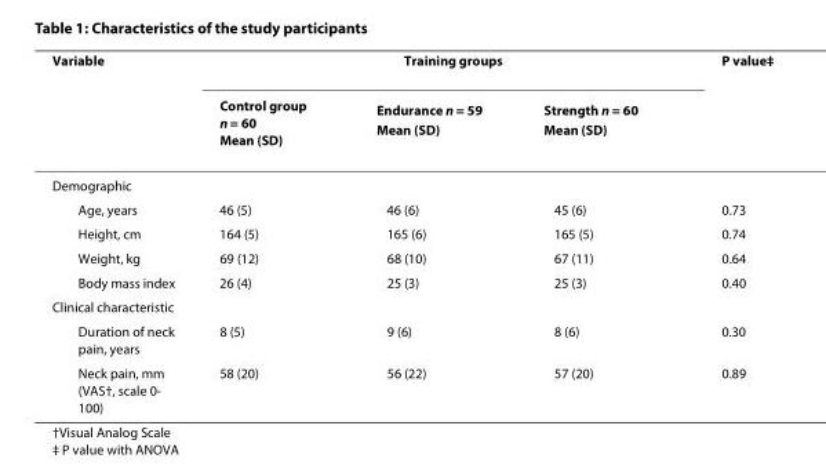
<table><thead><tr><td rowspan="2">Variable</td><td colspan="3">Training groups</td><td rowspan="2">P value‡</td></tr><tr><td>Control group n = 60 Mean (SD)</td><td>Endurance n = 59 Mean (SD)</td><td>Strength n = 60 Mean (SD)</td></tr></thead><tbody><tr><td colspan="5">Demographic</td></tr><tr><td>Age, years</td><td>46 (5)</td><td>46 (6)</td><td>45 (6)</td><td>0.73</td></tr><tr><td>Height, cm</td><td>164 (5)</td><td>165 (6)</td><td>165 (5)</td><td>0.74</td></tr><tr><td>Weight, kg</td><td>69 (12)</td><td>68 (10)</td><td>67 (11)</td><td>0.64</td></tr><tr><td>Body mass index</td><td>26 (4)</td><td>25 (3)</td><td>25 (3)</td><td>0.40</td></tr><tr><td colspan="5">Clinical characteristic</td></tr><tr><td>Duration of neck pain, years</td><td>8 (5)</td><td>9 (6)</td><td>8 (6)</td><td>0.30</td></tr><tr><td>Neck pain, mm (VAS†, scale 0- 100)</td><td>58 (20)</td><td>56 (22)</td><td>57 (20)</td><td>0.89</td></tr></tbody></table>